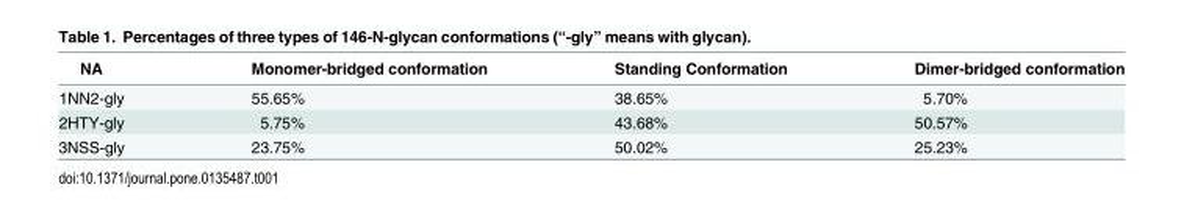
<table><thead><tr><td>NA</td><td>Monomer-bridged conformation</td><td>Standing Conformation</td><td>Dimer-bridged conformation</td></tr></thead><tbody><tr><td>1NN2-gly</td><td>55.65%</td><td>38.65%</td><td>5.70%</td></tr><tr><td>2HTY-gly</td><td>5.75%</td><td>43.68%</td><td>50.57%</td></tr><tr><td>3NSS-gly</td><td>23.75%</td><td>50.02%</td><td>25.23%</td></tr></tbody></table>